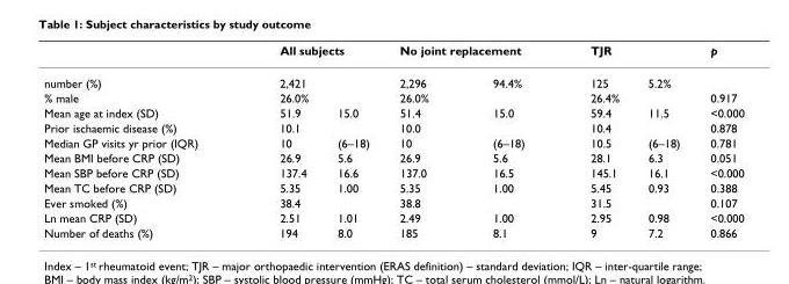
<table><thead><tr><td rowspan="2">number (%)</td><td colspan="2">All subjects</td><td colspan="2">No joint replacement</td><td colspan="2">TJR</td><td rowspan="2">p</td></tr><tr><td>2,421</td><td></td><td>2,296</td><td>94.4%</td><td>125</td><td>5.2%</td></tr></thead><tbody><tr><td>% male</td><td>26.0%</td><td></td><td>26.0%</td><td></td><td>26.4%</td><td></td><td>0.917</td></tr><tr><td>Mean age at index (SD)</td><td>51.9</td><td>15.0</td><td>51.4</td><td>15.0</td><td>59.4</td><td>11.5</td><td>&lt;0.000</td></tr><tr><td>Prior ischaemic disease (%)</td><td>10.1</td><td></td><td>10.0</td><td></td><td>10.4</td><td></td><td>0.878</td></tr><tr><td>Median GP visits yr prior (IQR)</td><td>10</td><td>(6–18)</td><td>10</td><td>(6–18)</td><td>10.5</td><td>(6–18)</td><td>0.781</td></tr><tr><td>Mean BMI before CRP (SD)</td><td>26.9</td><td>5.6</td><td>26.9</td><td>5.6</td><td>28.1</td><td>6.3</td><td>0.051</td></tr><tr><td>Mean SBP before CRP (SD)</td><td>137.4</td><td>16.6</td><td>137.0</td><td>16.5</td><td>145.1</td><td>16.1</td><td>&lt;0.000</td></tr><tr><td>Mean TC before CRP (SD)</td><td>5.35</td><td>1.00</td><td>5.35</td><td>1.00</td><td>5.45</td><td>0.93</td><td>0.388</td></tr><tr><td>Ever smoked (%)</td><td>38.4</td><td></td><td>38.8</td><td></td><td>31.5</td><td></td><td>0.107</td></tr><tr><td>Ln mean CRP (SD)</td><td>2.51</td><td>1.01</td><td>2.49</td><td>1.00</td><td>2.95</td><td>0.98</td><td>&lt;0.000</td></tr><tr><td>Number of deaths (%)</td><td>194</td><td>8.0</td><td>185</td><td>8.1</td><td>9</td><td>7.2</td><td>0.866</td></tr></tbody></table>